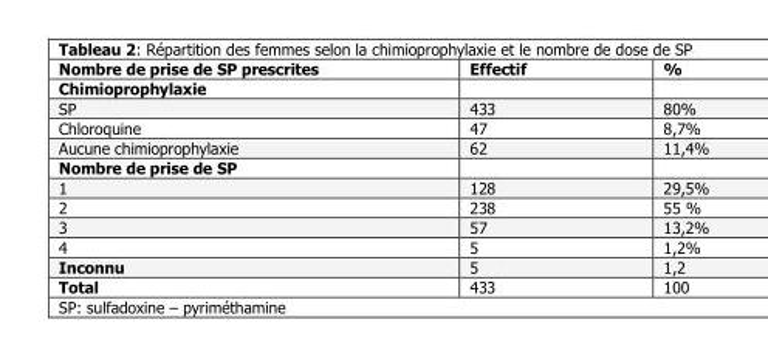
<table><thead><tr><td>Nombre de prise de SP prescrites</td><td>Effectif</td><td>%</td></tr></thead><tbody><tr><td colspan="3">Chimioprophylaxie</td></tr><tr><td>SP</td><td>433</td><td>80%</td></tr><tr><td>Chloroquine</td><td>47</td><td>8,7%</td></tr><tr><td>Aucune chimioprophylaxie</td><td>62</td><td>11,4%</td></tr><tr><td colspan="3">Nombre de prise de SP</td></tr><tr><td>1</td><td>128</td><td>29,5%</td></tr><tr><td>2</td><td>238</td><td>55 %</td></tr><tr><td>3</td><td>57</td><td>13,2%</td></tr><tr><td>4</td><td>5</td><td>1,2%</td></tr><tr><td>Inconnu</td><td>5</td><td>1,2</td></tr><tr><td>Total</td><td>433</td><td>100</td></tr></tbody></table>